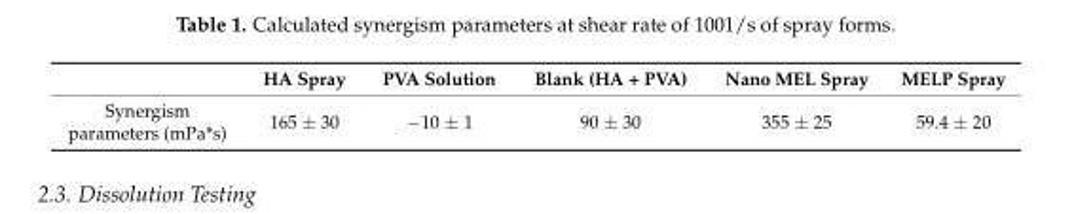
<table><thead><tr><td></td><td>HA Spray</td><td>PVA Solution</td><td>Blank (HA + PVA)</td><td>Nano MEL Spray</td><td>MELP Spray</td></tr></thead><tbody><tr><td>Synergism parameters (mPa*s)</td><td>165 ± 30</td><td>−10 ± 1</td><td>90 ± 30</td><td>355 ± 25</td><td>59.4 ± 20</td></tr></tbody></table>